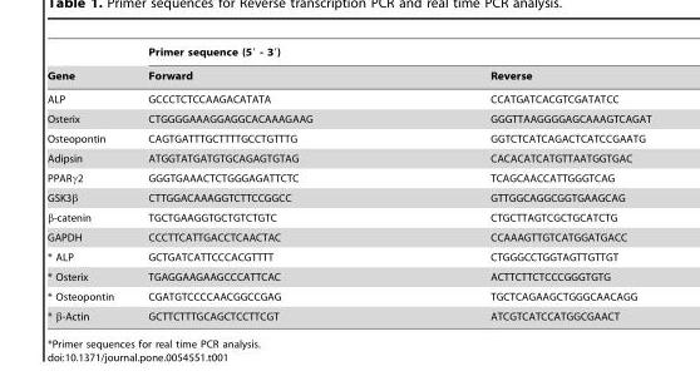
<table><thead><tr><td rowspan="2">Gene</td><td colspan="2">Primer sequence (5′ - 3′)</td></tr><tr><td>Forward</td><td>Reverse</td></tr></thead><tbody><tr><td>ALP</td><td>GCCCTCTCCAAGACATATA</td><td>CCATGATCACGTCGATATCC</td></tr><tr><td>Osterix</td><td>CTGGGGAAAGGAGGCACAAAGAAG</td><td>GGGTTAAGGGGAGCAAAGTCAGAT</td></tr><tr><td>Osteopontin</td><td>CAGTGATTTGCTTTTGCCTGTTTG</td><td>GGTCTCATCAGACTCATCCGAATG</td></tr><tr><td>Adipsin</td><td>ATGGTATGATGTGCAGAGTGTAG</td><td>CACACATCATGTTAATGGTGAC</td></tr><tr><td>PPARγ2</td><td>GGGTGAAACTCTGGGAGATTCTC</td><td>TCAGCAACCATTGGGTCAG</td></tr><tr><td>GSK3β</td><td>CTTGGACAAAGGTCTTCCGGCC</td><td>GTTGGCAGGCGGTGAAGCAG</td></tr><tr><td>β-catenin</td><td>TGCTGAAGGTGCTGTCTGTC</td><td>CTGCTTAGTCGCTGCATCTG</td></tr><tr><td>GAPDH</td><td>CCCTTCATTGACCTCAACTAC</td><td>CCAAAGTTGTCATGGATGACC</td></tr><tr><td>* ALP</td><td>GCTGATCATTCCCACGTTTT</td><td>CTGGGCCTGGTAGTTGTTGT</td></tr><tr><td>* Osterix</td><td>TGAGGAAGAAGCCCATTCAC</td><td>ACTTCTTCTCCCGGGTGTG</td></tr><tr><td>* Osteopontin</td><td>CGATGTCCCCAACGGCCGAG</td><td>TGCTCAGAAGCTGGGCAACAGG</td></tr><tr><td>* β-Actin</td><td>GCTTCTTTGCAGCTCCTTCGT</td><td>ATCGTCATCCATGGCGAACT</td></tr></tbody></table>